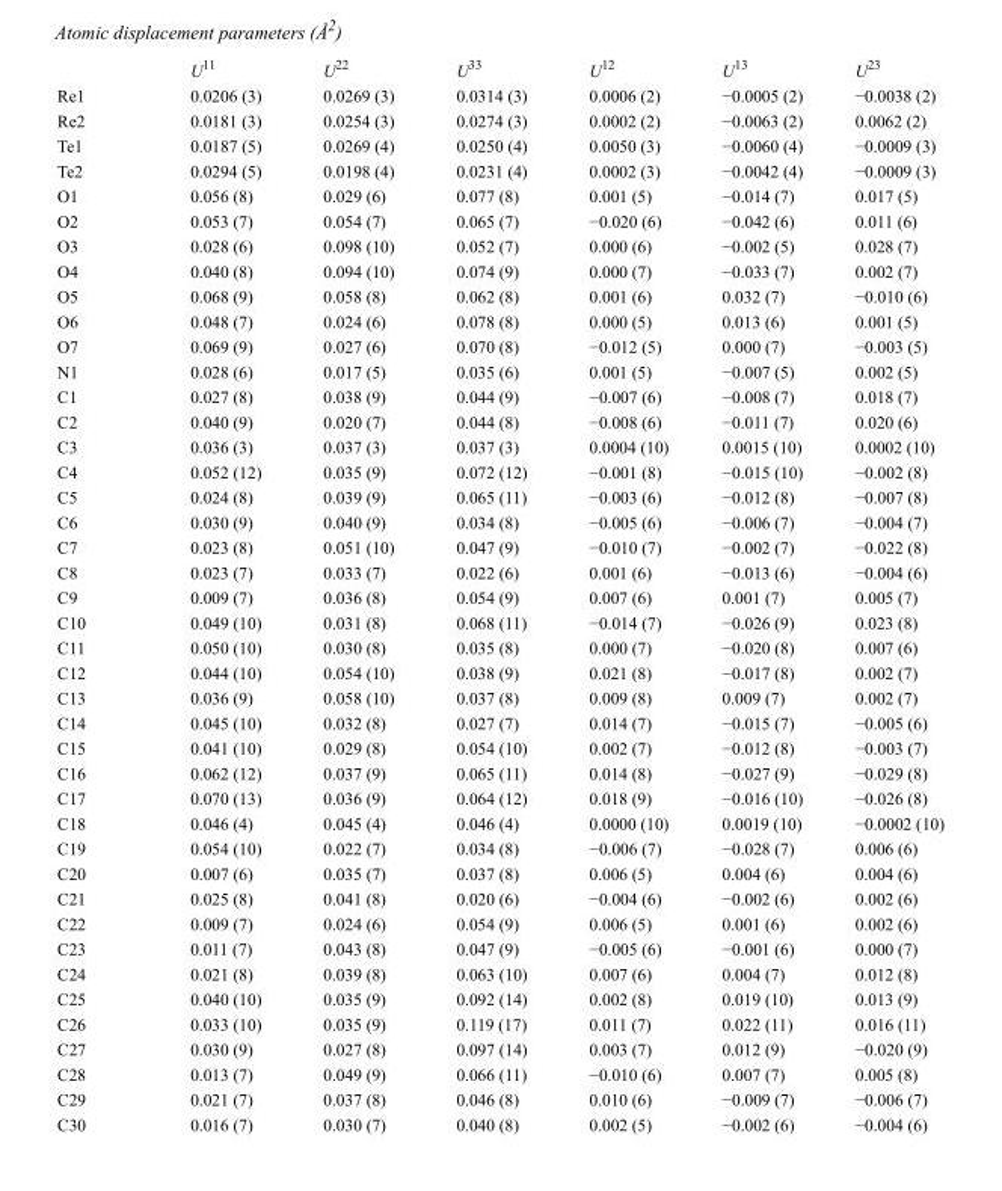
<table><thead><tr><td></td><td>U<sup>11</sup></td><td>U<sup>22</sup></td><td>U<sup>33</sup></td><td>U<sup>12</sup></td><td>U<sup>13</sup></td><td>U<sup>23</sup></td></tr></thead><tbody><tr><td>Re1</td><td>0.0206 (3)</td><td>0.0269 (3)</td><td>0.0314 (3)</td><td>0.0006 (2)</td><td>−0.0005 (2)</td><td>−0.0038 (2)</td></tr><tr><td>Re2</td><td>0.0181 (3)</td><td>0.0254 (3)</td><td>0.0274 (3)</td><td>0.0002 (2)</td><td>−0.0063 (2)</td><td>0.0062 (2)</td></tr><tr><td>Te1</td><td>0.0187 (5)</td><td>0.0269 (4)</td><td>0.0250 (4)</td><td>0.0050 (3)</td><td>−0.0060 (4)</td><td>−0.0009 (3)</td></tr><tr><td>Te2</td><td>0.0294 (5)</td><td>0.0198 (4)</td><td>0.0231 (4)</td><td>0.0002 (3)</td><td>−0.0042 (4)</td><td>−0.0009 (3)</td></tr><tr><td>O1</td><td>0.056 (8)</td><td>0.029 (6)</td><td>0.077 (8)</td><td>0.001 (5)</td><td>−0.014 (7)</td><td>0.017 (5)</td></tr><tr><td>O2</td><td>0.053 (7)</td><td>0.054 (7)</td><td>0.065 (7)</td><td>−0.020 (6)</td><td>−0.042 (6)</td><td>0.011 (6)</td></tr><tr><td>O3</td><td>0.028 (6)</td><td>0.098 (10)</td><td>0.052 (7)</td><td>0.000 (6)</td><td>−0.002 (5)</td><td>0.028 (7)</td></tr><tr><td>O4</td><td>0.040 (8)</td><td>0.094 (10)</td><td>0.074 (9)</td><td>0.000 (7)</td><td>−0.033 (7)</td><td>0.002 (7)</td></tr><tr><td>O5</td><td>0.068 (9)</td><td>0.058 (8)</td><td>0.062 (8)</td><td>0.001 (6)</td><td>0.032 (7)</td><td>−0.010 (6)</td></tr><tr><td>O6</td><td>0.048 (7)</td><td>0.024 (6)</td><td>0.078 (8)</td><td>0.000 (5)</td><td>0.013 (6)</td><td>0.001 (5)</td></tr><tr><td>O7</td><td>0.069 (9)</td><td>0.027 (6)</td><td>0.070 (8)</td><td>−0.012 (5)</td><td>0.000 (7)</td><td>−0.003 (5)</td></tr><tr><td>N1</td><td>0.028 (6)</td><td>0.017 (5)</td><td>0.035 (6)</td><td>0.001 (5)</td><td>−0.007 (5)</td><td>0.002 (5)</td></tr><tr><td>C1</td><td>0.027 (8)</td><td>0.038 (9)</td><td>0.044 (9)</td><td>−0.007 (6)</td><td>−0.008 (7)</td><td>0.018 (7)</td></tr><tr><td>C2</td><td>0.040 (9)</td><td>0.020 (7)</td><td>0.044 (8)</td><td>−0.008 (6)</td><td>−0.011 (7)</td><td>0.020 (6)</td></tr><tr><td>C3</td><td>0.036 (3)</td><td>0.037 (3)</td><td>0.037 (3)</td><td>0.0004 (10)</td><td>0.0015 (10)</td><td>0.0002 (10)</td></tr><tr><td>C4</td><td>0.052 (12)</td><td>0.035 (9)</td><td>0.072 (12)</td><td>−0.001 (8)</td><td>−0.015 (10)</td><td>−0.002 (8)</td></tr><tr><td>C5</td><td>0.024 (8)</td><td>0.039 (9)</td><td>0.065 (11)</td><td>−0.003 (6)</td><td>−0.012 (8)</td><td>−0.007 (8)</td></tr><tr><td>C6</td><td>0.030 (9)</td><td>0.040 (9)</td><td>0.034 (8)</td><td>−0.005 (6)</td><td>−0.006 (7)</td><td>−0.004 (7)</td></tr><tr><td>C7</td><td>0.023 (8)</td><td>0.051 (10)</td><td>0.047 (9)</td><td>−0.010 (7)</td><td>−0.002 (7)</td><td>−0.022 (8)</td></tr><tr><td>C8</td><td>0.023 (7)</td><td>0.033 (7)</td><td>0.022 (6)</td><td>0.001 (6)</td><td>−0.013 (6)</td><td>−0.004 (6)</td></tr><tr><td>C9</td><td>0.009 (7)</td><td>0.036 (8)</td><td>0.054 (9)</td><td>0.007 (6)</td><td>0.001 (7)</td><td>0.005 (7)</td></tr><tr><td>C10</td><td>0.049 (10)</td><td>0.031 (8)</td><td>0.068 (11)</td><td>−0.014 (7)</td><td>−0.026 (9)</td><td>0.023 (8)</td></tr><tr><td>C11</td><td>0.050 (10)</td><td>0.030 (8)</td><td>0.035 (8)</td><td>0.000 (7)</td><td>−0.020 (8)</td><td>0.007 (6)</td></tr><tr><td>C12</td><td>0.044 (10)</td><td>0.054 (10)</td><td>0.038 (9)</td><td>0.021 (8)</td><td>−0.017 (8)</td><td>0.002 (7)</td></tr><tr><td>C13</td><td>0.036 (9)</td><td>0.058 (10)</td><td>0.037 (8)</td><td>0.009 (8)</td><td>0.009 (7)</td><td>0.002 (7)</td></tr><tr><td>C14</td><td>0.045 (10)</td><td>0.032 (8)</td><td>0.027 (7)</td><td>0.014 (7)</td><td>−0.015 (7)</td><td>−0.005 (6)</td></tr><tr><td>C15</td><td>0.041 (10)</td><td>0.029 (8)</td><td>0.054 (10)</td><td>0.002 (7)</td><td>−0.012 (8)</td><td>−0.003 (7)</td></tr><tr><td>C16</td><td>0.062 (12)</td><td>0.037 (9)</td><td>0.065 (11)</td><td>0.014 (8)</td><td>−0.027 (9)</td><td>−0.029 (8)</td></tr><tr><td>C17</td><td>0.070 (13)</td><td>0.036 (9)</td><td>0.064 (12)</td><td>0.018 (9)</td><td>−0.016 (10)</td><td>−0.026 (8)</td></tr><tr><td>C18</td><td>0.046 (4)</td><td>0.045 (4)</td><td>0.046 (4)</td><td>0.0000 (10)</td><td>0.0019 (10)</td><td>−0.0002 (10)</td></tr><tr><td>C19</td><td>0.054 (10)</td><td>0.022 (7)</td><td>0.034 (8)</td><td>−0.006 (7)</td><td>−0.028 (7)</td><td>0.006 (6)</td></tr><tr><td>C20</td><td>0.007 (6)</td><td>0.035 (7)</td><td>0.037 (8)</td><td>0.006 (5)</td><td>0.004 (6)</td><td>0.004 (6)</td></tr><tr><td>C21</td><td>0.025 (8)</td><td>0.041 (8)</td><td>0.020 (6)</td><td>−0.004 (6)</td><td>−0.002 (6)</td><td>0.002 (6)</td></tr><tr><td>C22</td><td>0.009 (7)</td><td>0.024 (6)</td><td>0.054 (9)</td><td>0.006 (5)</td><td>0.001 (6)</td><td>0.002 (6)</td></tr><tr><td>C23</td><td>0.011 (7)</td><td>0.043 (8)</td><td>0.047 (9)</td><td>−0.005 (6)</td><td>−0.001 (6)</td><td>0.000 (7)</td></tr><tr><td>C24</td><td>0.021 (8)</td><td>0.039 (8)</td><td>0.063 (10)</td><td>0.007 (6)</td><td>0.004 (7)</td><td>0.012 (8)</td></tr><tr><td>C25</td><td>0.040 (10)</td><td>0.035 (9)</td><td>0.092 (14)</td><td>0.002 (8)</td><td>0.019 (10)</td><td>0.013 (9)</td></tr><tr><td>C26</td><td>0.033 (10)</td><td>0.035 (9)</td><td>0.119 (17)</td><td>0.011 (7)</td><td>0.022 (11)</td><td>0.016 (11)</td></tr><tr><td>C27</td><td>0.030 (9)</td><td>0.027 (8)</td><td>0.097 (14)</td><td>0.003 (7)</td><td>0.012 (9)</td><td>−0.020 (9)</td></tr><tr><td>C28</td><td>0.013 (7)</td><td>0.049 (9)</td><td>0.066 (11)</td><td>−0.010 (6)</td><td>0.007 (7)</td><td>0.005 (8)</td></tr><tr><td>C29</td><td>0.021 (7)</td><td>0.037 (8)</td><td>0.046 (8)</td><td>0.010 (6)</td><td>−0.009 (7)</td><td>−0.006 (7)</td></tr><tr><td>C30</td><td>0.016 (7)</td><td>0.030 (7)</td><td>0.040 (8)</td><td>0.002 (5)</td><td>−0.002 (6)</td><td>−0.004 (6)</td></tr></tbody></table>